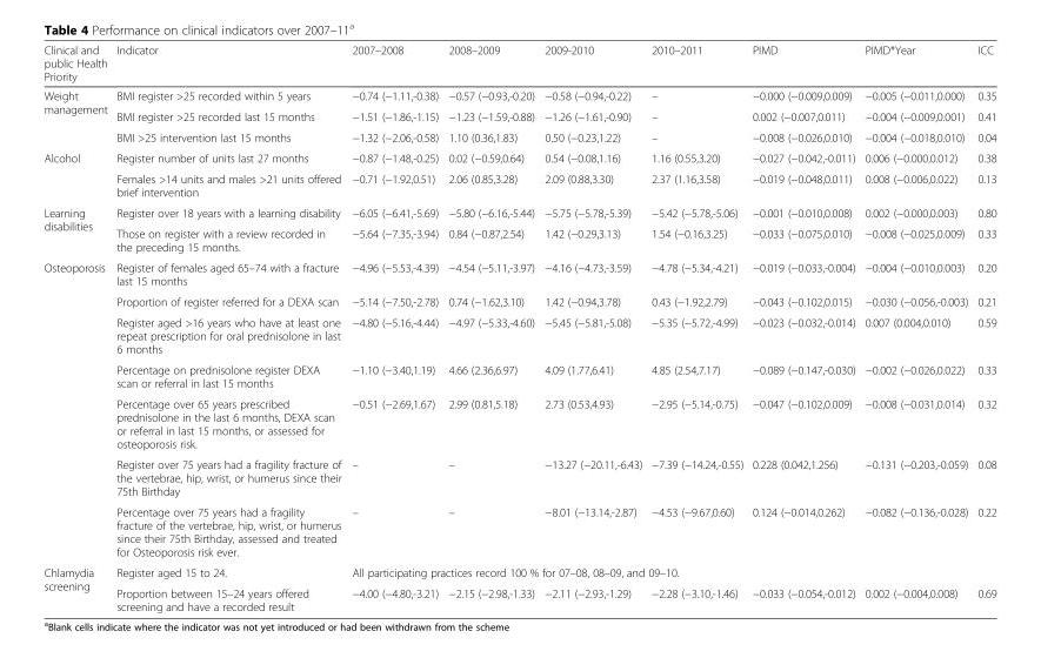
<table><thead><tr><td>Clinical and public Health Priority</td><td>Indicator</td><td>2007–2008</td><td>2008–2009</td><td>2009-2010</td><td>2010–2011</td><td>PIMD</td><td>PIMD*Year</td><td>ICC</td></tr></thead><tbody><tr><td rowspan="3">Weight management</td><td>BMI register &gt;25 recorded within 5 years</td><td>−0.74 (−1.11,-0.38)</td><td>−0.57 (−0.93,-0.20)</td><td>−0.58 (−0.94,-0.22)</td><td>–</td><td>−0.000 (−0.009,0.009)</td><td>−0.005 (−0.011,0.000)</td><td>0.35</td></tr><tr><td>BMI register &gt;25 recorded last 15 months</td><td>−1.51 (−1.86,-1.15)</td><td>−1.23 (−1.59,-0.88)</td><td>−1.26 (−1.61,-0.90)</td><td>–</td><td>0.002 (−0.007,0.011)</td><td>−0.004 (−0.009,0.001)</td><td>0.41</td></tr><tr><td>BMI &gt;25 intervention last 15 months</td><td>−1.32 (−2.06,-0.58)</td><td>1.10 (0.36,1.83)</td><td>0.50 (−0.23,1.22)</td><td>–</td><td>−0.008 (−0.026,0.010)</td><td>−0.004 (−0.018,0.010)</td><td>0.04</td></tr><tr><td rowspan="2">Alcohol</td><td>Register number of units last 27 months</td><td>−0.87 (−1.48,-0.25)</td><td>0.02 (−0.59,0.64)</td><td>0.54 (−0.08,1.16)</td><td>1.16 (0.55,3.20)</td><td>−0.027 (−0.042,-0.011)</td><td>0.006 (−0.000,0.012)</td><td>0.38</td></tr><tr><td>Females &gt;14 units and males &gt;21 units offered brief intervention</td><td>−0.71 (−1.92,0.51)</td><td>2.06 (0.85,3.28)</td><td>2.09 (0.88,3.30)</td><td>2.37 (1.16,3.58)</td><td>−0.019 (−0.048,0.011)</td><td>0.008 (−0.006,0.022)</td><td>0.13</td></tr><tr><td rowspan="2">Learning disabilities</td><td>Register over 18 years with a learning disability</td><td>−6.05 (−6.41,-5.69)</td><td>−5.80 (−6.16,-5.44)</td><td>−5.75 (−5.78,-5.39)</td><td>−5.42 (−5.78,-5.06)</td><td>−0.001 (−0.010,0.008)</td><td>0.002 (−0.000,0.003)</td><td>0.80</td></tr><tr><td>Those on register with a review recorded in the preceding 15 months.</td><td>−5.64 (−7.35,-3.94)</td><td>0.84 (−0.87,2.54)</td><td>1.42 (−0.29,3.13)</td><td>1.54 (−0.16,3.25)</td><td>−0.033 (−0.075,0.010)</td><td>−0.008 (−0.025,0.009)</td><td>0.33</td></tr><tr><td rowspan="7">Osteoporosis</td><td>Register of females aged 65–74 with a fracture last 15 months</td><td>−4.96 (−5.53,-4.39)</td><td>−4.54 (−5.11,-3.97)</td><td>−4.16 (−4.73,-3.59)</td><td>−4.78 (−5.34,-4.21)</td><td>−0.019 (−0.033,-0.004)</td><td>−0.004 (−0.010,0.003)</td><td>0.20</td></tr><tr><td>Proportion of register referred for a DEXA scan</td><td>−5.14 (−7.50,-2.78)</td><td>0.74 (−1.62,3.10)</td><td>1.42 (−0.94,3.78)</td><td>0.43 (−1.92,2.79)</td><td>−0.043 (−0.102,0.015)</td><td>−0.030 (−0.056,-0.003)</td><td>0.21</td></tr><tr><td>Register aged &gt;16 years who have at least one repeat prescription for oral prednisolone in last 6 months</td><td>−4.80 (−5.16,-4.44)</td><td>−4.97 (−5.33,-4.60)</td><td>−5.45 (−5.81,-5.08)</td><td>−5.35 (−5.72,-4.99)</td><td>−0.023 (−0.032,-0.014)</td><td>0.007 (0.004,0.010)</td><td>0.59</td></tr><tr><td>Percentage on prednisolone register DEXA scan or referral in last 15 months</td><td>−1.10 (−3.40,1.19)</td><td>4.66 (2.36,6.97)</td><td>4.09 (1.77,6.41)</td><td>4.85 (2.54,7.17)</td><td>−0.089 (−0.147,-0.030)</td><td>−0.002 (−0.026,0.022)</td><td>0.33</td></tr><tr><td>Percentage over 65 years prescribed prednisolone in the last 6 months, DEXA scan or referral in last 15 months, or assessed for osteoporosis risk.</td><td>−0.51 (−2.69,1.67)</td><td>2.99 (0.81,5.18)</td><td>2.73 (0.53,4.93)</td><td>−2.95 (−5.14,-0.75)</td><td>−0.047 (−0.102,0.009)</td><td>−0.008 (−0.031,0.014)</td><td>0.32</td></tr><tr><td>Register over 75 years had a fragility fracture of the vertebrae, hip, wrist, or humerus since their 75th Birthday</td><td>–</td><td>–</td><td>−13.27 (−20.11,-6.43)</td><td>−7.39 (−14.24,-0.55)</td><td>0.228 (0.042,1.256)</td><td>−0.131 (−0.203,-0.059)</td><td>0.08</td></tr><tr><td>Percentage over 75 years had a fragility fracture of the vertebrae, hip, wrist, or humerus since their 75th Birthday, assessed and treated for Osteoporosis risk ever.</td><td>–</td><td>–</td><td>−8.01 (−13.14,-2.87)</td><td>−4.53 (−9.67,0.60)</td><td>0.124 (−0.014,0.262)</td><td>−0.082 (−0.136,-0.028)</td><td>0.22</td></tr><tr><td rowspan="2">Chlamydia screening</td><td>Register aged 15 to 24.</td><td colspan="7">All participating practices record 100 % for 07–08, 08–09, and 09–10.</td></tr><tr><td>Proportion between 15–24 years offered screening and have a recorded result</td><td>−4.00 (−4.80,-3.21)</td><td>−2.15 (−2.98,-1.33)</td><td>−2.11 (−2.93,-1.29)</td><td>−2.28 (−3.10,-1.46)</td><td>−0.033 (−0.054,-0.012)</td><td>0.002 (−0.004,0.008)</td><td>0.69</td></tr></tbody></table>